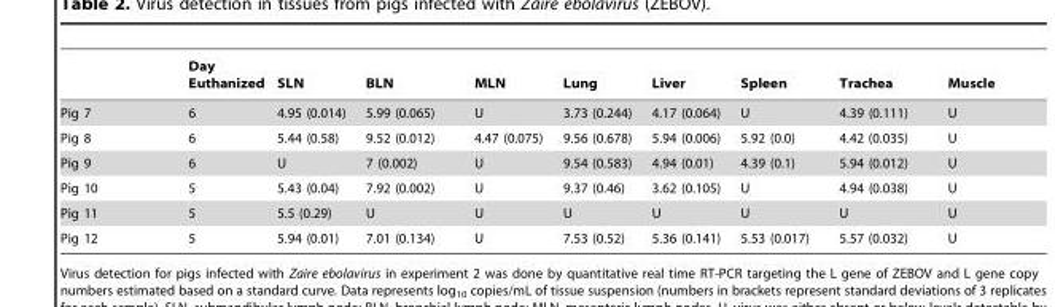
<table><thead><tr><td></td><td>Day Euthanized</td><td>SLN</td><td>BLN</td><td>MLN</td><td>Lung</td><td>Liver</td><td>Spleen</td><td>Trachea</td><td>Muscle</td></tr></thead><tbody><tr><td>Pig 7</td><td>6</td><td>4.95 (0.014)</td><td>5.99 (0.065)</td><td>U</td><td>3.73 (0.244)</td><td>4.17 (0.064)</td><td>U</td><td>4.39 (0.111)</td><td>U</td></tr><tr><td>Pig 8</td><td>6</td><td>5.44 (0.58)</td><td>9.52 (0.012)</td><td>4.47 (0.075)</td><td>9.56 (0.678)</td><td>5.94 (0.006)</td><td>5.92 (0.0)</td><td>4.42 (0.035)</td><td>U</td></tr><tr><td>Pig 9</td><td>6</td><td>U</td><td>7 (0.002)</td><td>U</td><td>9.54 (0.583)</td><td>4.94 (0.01)</td><td>4.39 (0.1)</td><td>5.94 (0.012)</td><td>U</td></tr><tr><td>Pig 10</td><td>5</td><td>5.43 (0.04)</td><td>7.92 (0.002)</td><td>U</td><td>9.37 (0.46)</td><td>3.62 (0.105)</td><td>U</td><td>4.94 (0.038)</td><td>U</td></tr><tr><td>Pig 11</td><td>5</td><td>5.5 (0.29)</td><td>U</td><td>U</td><td>U</td><td>U</td><td>U</td><td>U</td><td>U</td></tr><tr><td>Pig 12</td><td>5</td><td>5.94 (0.01)</td><td>7.01 (0.134)</td><td>U</td><td>7.53 (0.52)</td><td>5.36 (0.141)</td><td>5.53 (0.017)</td><td>5.57 (0.032)</td><td>U</td></tr></tbody></table>